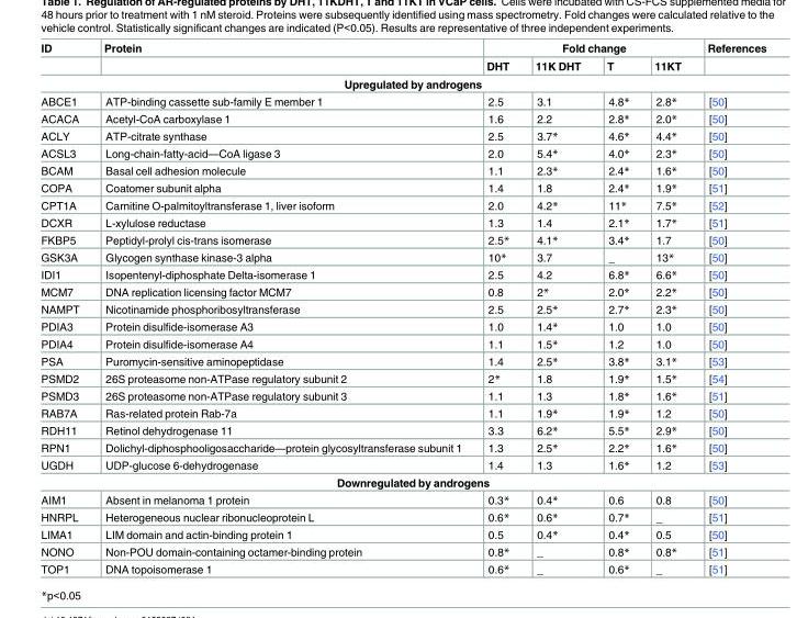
<table><thead><tr><td rowspan="2">ID</td><td rowspan="2">Protein</td><td colspan="4">Fold change</td><td rowspan="2">References</td></tr><tr><td>DHT</td><td>11K DHT</td><td>T</td><td>11KT</td></tr></thead><tbody><tr><td colspan="7">Upregulated by androgens</td></tr><tr><td>ABCE1</td><td>ATP-binding cassette sub-family E member 1</td><td>2.5</td><td>3.1</td><td>4.8*</td><td>2.8*</td><td>[50]</td></tr><tr><td>ACACA</td><td>Acetyl-CoA carboxylase 1</td><td>1.6</td><td>2.2</td><td>2.8*</td><td>2.0*</td><td>[50]</td></tr><tr><td>ACLY</td><td>ATP-citrate synthase</td><td>2.5</td><td>3.7*</td><td>4.6*</td><td>4.4*</td><td>[50]</td></tr><tr><td>ACSL3</td><td>Long-chain-fatty-acid—CoA ligase 3</td><td>2.0</td><td>5.4*</td><td>4.0*</td><td>2.3*</td><td>[50]</td></tr><tr><td>BCAM</td><td>Basal cell adhesion molecule</td><td>1.1</td><td>2.3*</td><td>2.4*</td><td>1.6*</td><td>[50]</td></tr><tr><td>COPA</td><td>Coatomer subunit alpha</td><td>1.4</td><td>1.8</td><td>2.4*</td><td>1.9*</td><td>[51]</td></tr><tr><td>CPT1A</td><td>Carnitine O-palmitoyltransferase 1, liver isoform</td><td>2.0</td><td>4.2*</td><td>11*</td><td>7.5*</td><td>[52]</td></tr><tr><td>DCXR</td><td>L-xylulose reductase</td><td>1.3</td><td>1.4</td><td>2.1*</td><td>1.7*</td><td>[51]</td></tr><tr><td>FKBP5</td><td>Peptidyl-prolyl cis-trans isomerase</td><td>2.5*</td><td>4.1*</td><td>3.4*</td><td>1.7</td><td>[50]</td></tr><tr><td>GSK3A</td><td>Glycogen synthase kinase-3 alpha</td><td>10*</td><td>3.7</td><td>_</td><td>13*</td><td>[50]</td></tr><tr><td>IDI1</td><td>Isopentenyl-diphosphate Delta-isomerase 1</td><td>2.5</td><td>4.2</td><td>6.8*</td><td>6.6*</td><td>[50]</td></tr><tr><td>MCM7</td><td>DNA replication licensing factor MCM7</td><td>0.8</td><td>2*</td><td>2.0*</td><td>2.2*</td><td>[50]</td></tr><tr><td>NAMPT</td><td>Nicotinamide phosphoribosyltransferase</td><td>2.5</td><td>2.5*</td><td>2.7*</td><td>2.3*</td><td>[50]</td></tr><tr><td>PDIA3</td><td>Protein disulfide-isomerase A3</td><td>1.0</td><td>1.4*</td><td>1.0</td><td>1.0</td><td>[50]</td></tr><tr><td>PDIA4</td><td>Protein disulfide-isomerase A4</td><td>1.1</td><td>1.5*</td><td>1.2</td><td>1.0</td><td>[50]</td></tr><tr><td>PSA</td><td>Puromycin-sensitive aminopeptidase</td><td>1.4</td><td>2.5*</td><td>3.8*</td><td>3.1*</td><td>[53]</td></tr><tr><td>PSMD2</td><td>26S proteasome non-ATPase regulatory subunit 2</td><td>2*</td><td>1.8</td><td>1.9*</td><td>1.5*</td><td>[54]</td></tr><tr><td>PSMD3</td><td>26S proteasome non-ATPase regulatory subunit 3</td><td>1.1</td><td>1.3</td><td>1.8*</td><td>1.6*</td><td>[51]</td></tr><tr><td>RAB7A</td><td>Ras-related protein Rab-7a</td><td>1.1</td><td>1.9*</td><td>1.9*</td><td>1.2</td><td>[50]</td></tr><tr><td>RDH11</td><td>Retinol dehydrogenase 11</td><td>3.3</td><td>6.2*</td><td>5.5*</td><td>2.9*</td><td>[50]</td></tr><tr><td>RPN1</td><td>Dolichyl-diphosphooligosaccharide—protein glycosyltransferase subunit 1</td><td>1.3</td><td>2.5*</td><td>2.2*</td><td>1.6*</td><td>[50]</td></tr><tr><td>UGDH</td><td>UDP-glucose 6-dehydrogenase</td><td>1.4</td><td>1.3</td><td>1.6*</td><td>1.2</td><td>[53]</td></tr><tr><td colspan="7">Downregulated by androgens</td></tr><tr><td>AIM1</td><td>Absent in melanoma 1 protein</td><td>0.3*</td><td>0.4*</td><td>0.6</td><td>0.8</td><td>[50]</td></tr><tr><td>HNRPL</td><td>Heterogeneous nuclear ribonucleoprotein L</td><td>0.6*</td><td>0.6*</td><td>0.7*</td><td>_</td><td>[51]</td></tr><tr><td>LIMA1</td><td>LIM domain and actin-binding protein 1</td><td>0.5</td><td>0.4*</td><td>0.4*</td><td>0.5</td><td>[50]</td></tr><tr><td>NONO</td><td>Non-POU domain-containing octamer-binding protein</td><td>0.8*</td><td>_</td><td>0.8*</td><td>0.8*</td><td>[51]</td></tr><tr><td>TOP1</td><td>DNA topoisomerase 1</td><td>0.6*</td><td>_</td><td>0.6*</td><td>_</td><td>[51]</td></tr></tbody></table>